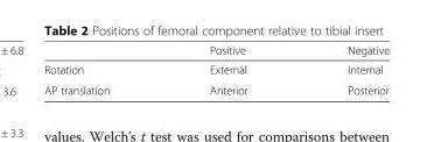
<table><thead><tr><td></td><td>Positive</td><td>Negative</td></tr></thead><tbody><tr><td>Rotation</td><td>External</td><td>Internal</td></tr><tr><td>AP translation</td><td>Anterior</td><td>Posterior</td></tr></tbody></table>